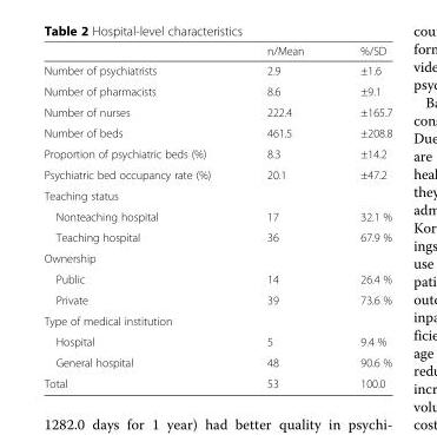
<table><thead><tr><td></td><td>n/Mean</td><td>%/SD</td></tr></thead><tbody><tr><td>Number of psychiatrists</td><td>2.9</td><td>±1.6</td></tr><tr><td>Number of pharmacists</td><td>8.6</td><td>±9.1</td></tr><tr><td>Number of nurses</td><td>222.4</td><td>±165.7</td></tr><tr><td>Number of beds</td><td>461.5</td><td>±208.8</td></tr><tr><td>Proportion of psychiatric beds (%)</td><td>8.3</td><td>±14.2</td></tr><tr><td>Psychiatric bed occupancy rate (%)</td><td>20.1</td><td>±47.2</td></tr><tr><td colspan="3">Teaching status</td></tr><tr><td>Nonteaching hospital</td><td>17</td><td>32.1 %</td></tr><tr><td>Teaching hospital</td><td>36</td><td>67.9 %</td></tr><tr><td colspan="3">Ownership</td></tr><tr><td>Public</td><td>14</td><td>26.4 %</td></tr><tr><td>Private</td><td>39</td><td>73.6 %</td></tr><tr><td colspan="3">Type of medical institution</td></tr><tr><td>Hospital</td><td>5</td><td>9.4 %</td></tr><tr><td>General hospital</td><td>48</td><td>90.6 %</td></tr><tr><td>Total</td><td>53</td><td>100.0</td></tr></tbody></table>